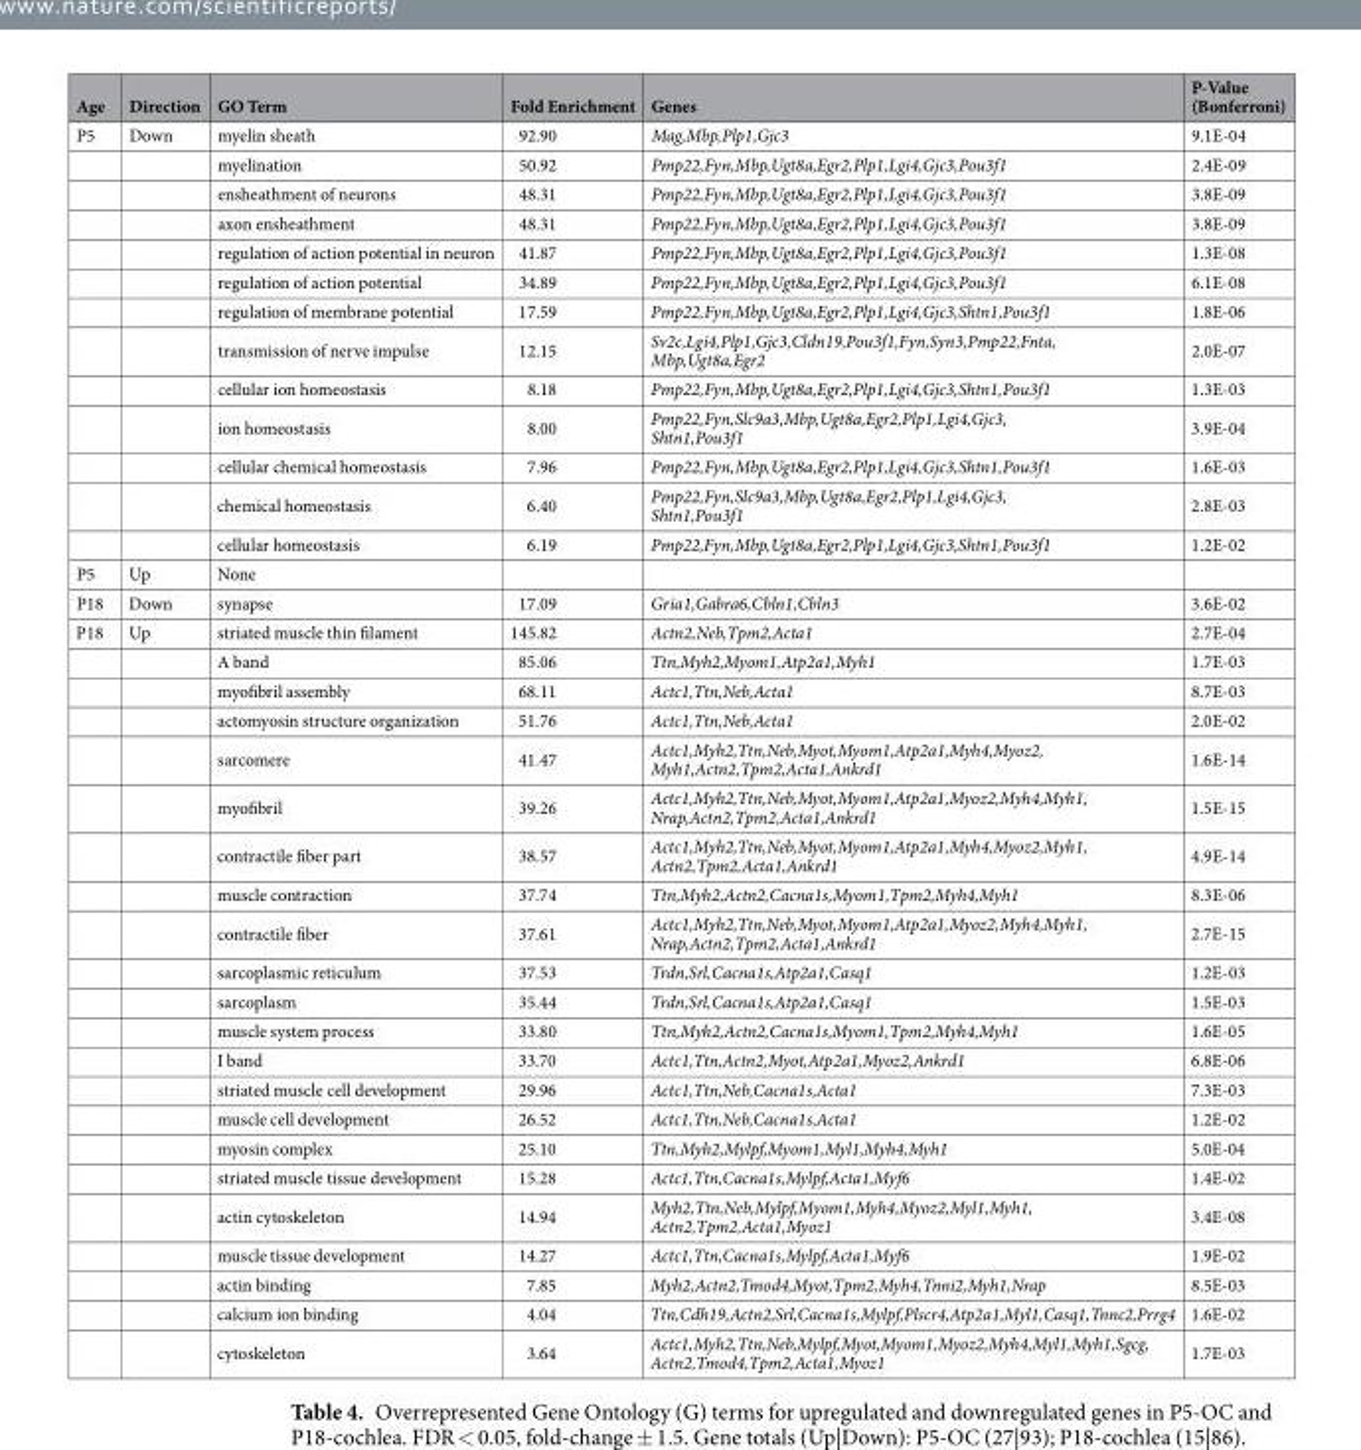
<table><thead><tr><td>Age</td><td>Direction</td><td>GO Term</td><td>Fold Enrichment</td><td>Genes</td><td>P-Value (Bonferroni)</td></tr></thead><tbody><tr><td rowspan="13">P5</td><td>Down</td><td>myelin sheath</td><td>92.90</td><td>Mag,Mbp,Plp1,Gjc3</td><td>9.1E-04</td></tr><tr><td></td><td>myelination</td><td>50.92</td><td>Pmp22,Fyn,Mbp,Ugt8a,Egr2,Plp1,Lgi4,Gjc3,Pou3f1</td><td>2.4E-09</td></tr><tr><td></td><td>ensheathment of neurons</td><td>48.31</td><td>Pmp22,Fyn,Mbp,Ugt8a,Egr2,Plp1,Lgi4,Gjc3,Pou3f1</td><td>3.8E-09</td></tr><tr><td></td><td>axon ensheathment</td><td>48.31</td><td>Pmp22,Fyn,Mbp,Ugt8a,Egr2,Plp1,Lgi4,Gjc3,Pou3f1</td><td>3.8E-09</td></tr><tr><td></td><td>regulation of action potential in neuron</td><td>41.87</td><td>Pmp22,Fyn,Mbp,Ugt8a,Egr2,Plp1,Lgi4,Gjc3,Pou3f1</td><td>1.3E-08</td></tr><tr><td></td><td>regulation of action potential</td><td>34.89</td><td>Pmp22,Fyn,Mbp,Ugt8a,Egr2,Plp1,Lgi4,Gjc3,Pou3f1</td><td>6.1E-08</td></tr><tr><td></td><td>regulation of membrane potential</td><td>17.59</td><td>Pmp22,Fyn,Mbp,Ugt8a,Egr2,Plp1,Lgi4,Gjc3,Shtn1,Pou3f1</td><td>1.8E-06</td></tr><tr><td></td><td>transmission of nerve impulse</td><td>12.15</td><td>Sv2c,Lgi4,Plp1,Gjc3,Cldn19,Pou3f1,Fyn,Syn3,Pmp22,Fnta, Mbp,Ugt8a,Egr2</td><td>2.0E-07</td></tr><tr><td></td><td>cellular ion homeostasis</td><td>8.18</td><td>Pmp22,Fyn,Mbp,Ugt8a,Egr2,Plp1,Lgi4,Gjc3,Shtn1,Pou3f1</td><td>1.3E-03</td></tr><tr><td></td><td>ion homeostasis</td><td>8.00</td><td>Pmp22,Fyn,Slc9a3,Mbp,Ugt8a,Egr2,Plp1,Lgi4,Gjc3, Shtn1,Pou3f1</td><td>3.9E-04</td></tr><tr><td></td><td>cellular chemical homeostasis</td><td>7.96</td><td>Pmp22,Fyn,Mbp,Ugt8a,Egr2,Plp1,Lgi4,Gjc3,Shtn1,Pou3f1</td><td>1.6E-03</td></tr><tr><td></td><td>chemical homeostasis</td><td>6.40</td><td>Pmp22,Fyn,Slc9a3,Mbp,Ugt8a,Egr2,Plp1,Lgi4,Gjc3, Shtn1,Pou3f1</td><td>2.8E-03</td></tr><tr><td></td><td>cellular homeostasis</td><td>6.19</td><td>Pmp22,Fyn,Mbp,Ugt8a,Egr2,Plp1,Lgi4,Gjc3,Shtn1,Pou3f1</td><td>1.2E-02</td></tr><tr><td>P5</td><td>Up</td><td>None</td><td></td><td></td><td></td></tr><tr><td>P18</td><td>Down</td><td>synapse</td><td>17.09</td><td>Gria1,Gabra6,Cbln1,Cbln3</td><td>3.6E-02</td></tr><tr><td rowspan="22">P18</td><td>Up</td><td>striated muscle thin filament</td><td>145.82</td><td>Actn2,Neb,Tpm2,Acta1</td><td>2.7E-04</td></tr><tr><td></td><td>A band</td><td>85.06</td><td>Ttn,Myh2,Myom1,Atp2a1,Myh1</td><td>1.7E-03</td></tr><tr><td></td><td>myofibril assembly</td><td>68.11</td><td>Actc1,Ttn,Neb,Acta1</td><td>8.7E-03</td></tr><tr><td></td><td>actomyosin structure organization</td><td>51.76</td><td>Actc1,Ttn,Neb,Acta1</td><td>2.0E-02</td></tr><tr><td></td><td>sarcomere</td><td>41.47</td><td>Actc1,Myh2,Ttn,Neb,Myot,Myom1,Atp2a1,Myh4,Myoz2, Myh1,Actn2,Tpm2,Acta1,Ankrd1</td><td>1.6E-14</td></tr><tr><td></td><td>myofibril</td><td>39.26</td><td>Actc1,Myh2,Ttn,Neb,Myot,Myom1,Atp2a1,Myoz2,Myh4,Myh1, Nrap,Actn2,Tpm2,Acta1,Ankrd1</td><td>1.5E-15</td></tr><tr><td></td><td>contractile fiber part</td><td>38.57</td><td>Actc1,Myh2,Ttn,Neb,Myot,Myom1,Atp2a1,Myh4,Myoz2,Myh1, Actn2,Tpm2,Acta1,Ankrd1</td><td>4.9E-14</td></tr><tr><td></td><td>muscle contraction</td><td>37.74</td><td>Ttn,Myh2,Actn2,Cacna1s,Myom1,Tpm2,Myh4,Myh1</td><td>8.3E-06</td></tr><tr><td></td><td>contractile fiber</td><td>37.61</td><td>Actc1,Myh2,Ttn,Neb,Myot,Myom1,Atp2a1,Myoz2,Myh4,Myh1, Nrap,Actn2,Tpm2,Acta1,Ankrd1</td><td>2.7E-15</td></tr><tr><td></td><td>sarcoplasmic reticulum</td><td>37.53</td><td>Trdn,Srl,Cacna1s,Atp2a1,Casq1</td><td>1.2E-03</td></tr><tr><td></td><td>sarcoplasm</td><td>35.44</td><td>Trdn,Srl,Cacna1s,Atp2a1,Casq1</td><td>1.5E-03</td></tr><tr><td></td><td>muscle system process</td><td>33.80</td><td>Ttn,Myh2,Actn2,Cacna1s,Myom1,Tpm2,Myh4,Myh1</td><td>1.6E-05</td></tr><tr><td></td><td>I band</td><td>33.70</td><td>Actc1,Ttn,Actn2,Myot,Atp2a1,Myoz2,Ankrd1</td><td>6.8E-06</td></tr><tr><td></td><td>striated muscle cell development</td><td>29.96</td><td>Actc1,Ttn,Neb,Cacna1s,Acta1</td><td>7.3E-03</td></tr><tr><td></td><td>muscle cell development</td><td>26.52</td><td>Actc1,Ttn,Neb,Cacna1s,Acta1</td><td>1.2E-02</td></tr><tr><td></td><td>myosin complex</td><td>25.10</td><td>Ttn,Myh2,Mylpf,Myom1,Myl1,Myh4,Myh1</td><td>5.0E-04</td></tr><tr><td></td><td>striated muscle tissue development</td><td>15.28</td><td>Actc1,Ttn,Cacna1s,Mylpf,Acta1,Myf6</td><td>1.4E-02</td></tr><tr><td></td><td>actin cytoskeleton</td><td>14.94</td><td>Myh2,Ttn,Neb,Mylpf,Myom1,Myh4,Myoz2,Myl1,Myh1, Actn2,Tpm2,Acta1,Myoz1</td><td>3.4E-08</td></tr><tr><td></td><td>muscle tissue development</td><td>14.27</td><td>Actc1,Ttn,Cacna1s,Mylpf,Acta1,Myf6</td><td>1.9E-02</td></tr><tr><td></td><td>actin binding</td><td>7.85</td><td>Myh2,Actn2,Tmod4,Myot,Tpm2,Myh4,Tnni2,Myh1,Nrap</td><td>8.5E-03</td></tr><tr><td></td><td>calcium ion binding</td><td>4.04</td><td>Ttn,Cdh19,Actn2,Srl,Cacna1s,Mylpf,Plscr4,Atp2a1,Myl1,Casq1,Tnnc2,Prrg4</td><td>1.6E-02</td></tr><tr><td></td><td>cytoskeleton</td><td>3.64</td><td>Actc1,Myh2,Ttn,Neb,Mylpf,Myot,Myom1,Myoz2,Myh4,Myl1,Myh1,Sgcg, Actn2,Tmod4,Tpm2,Acta1,Myoz1</td><td>1.7E-03</td></tr></tbody></table>